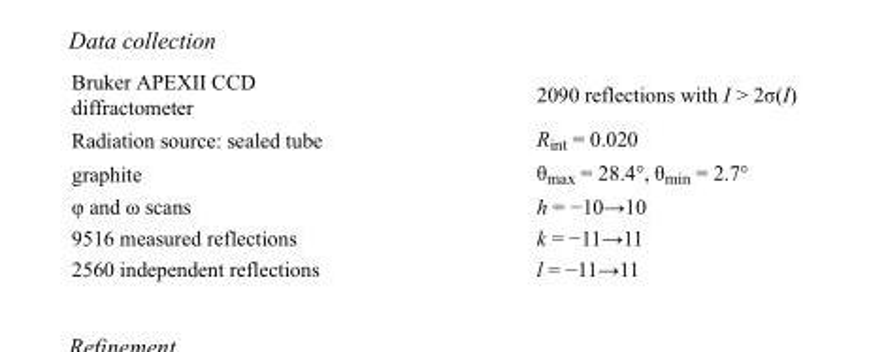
<table><tbody><tr><td>Bruker APEXII CCD diffractometer</td><td>2090 reflections with I &gt; 2σ(I)</td></tr><tr><td>Radiation source: sealed tube</td><td>R<sub>int</sub> = 0.020</td></tr><tr><td>graphite</td><td>θ<sub>max</sub> = 28.4°, θ<sub>min</sub> = 2.7°</td></tr><tr><td>φ and ω scans</td><td>h = −10→10</td></tr><tr><td>9516 measured reflections</td><td>k = −11→11</td></tr><tr><td>2560 independent reflections</td><td>l = −11→11</td></tr></tbody></table>